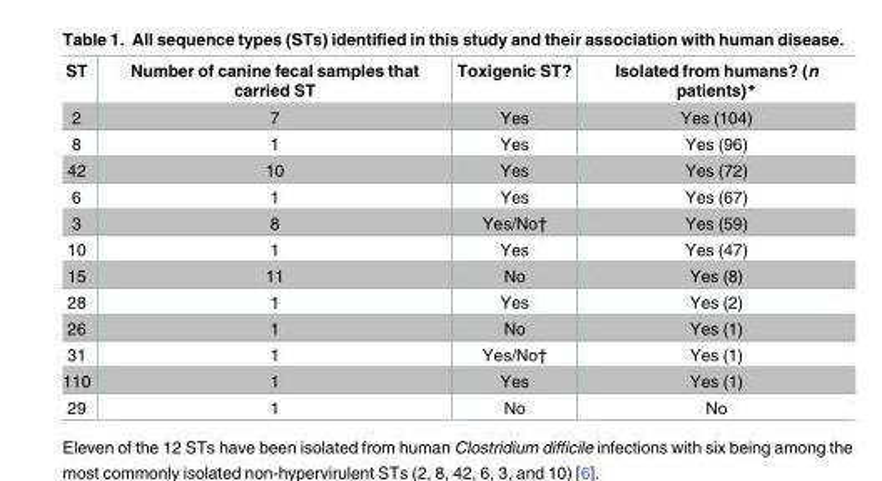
<table><thead><tr><td>ST</td><td>Number of canine fecal samples that carried ST</td><td>Toxigenic ST?</td><td>Isolated from humans? (n patients)*</td></tr></thead><tbody><tr><td>2</td><td>7</td><td>Yes</td><td>Yes (104)</td></tr><tr><td>8</td><td>1</td><td>Yes</td><td>Yes (96)</td></tr><tr><td>42</td><td>10</td><td>Yes</td><td>Yes (72)</td></tr><tr><td>6</td><td>1</td><td>Yes</td><td>Yes (67)</td></tr><tr><td>3</td><td>8</td><td>Yes/No†</td><td>Yes (59)</td></tr><tr><td>10</td><td>1</td><td>Yes</td><td>Yes (47)</td></tr><tr><td>15</td><td>11</td><td>No</td><td>Yes (8)</td></tr><tr><td>28</td><td>1</td><td>Yes</td><td>Yes (2)</td></tr><tr><td>26</td><td>1</td><td>No</td><td>Yes (1)</td></tr><tr><td>31</td><td>1</td><td>Yes/No†</td><td>Yes (1)</td></tr><tr><td>110</td><td>1</td><td>Yes</td><td>Yes (1)</td></tr><tr><td>29</td><td>1</td><td>No</td><td>No</td></tr></tbody></table>